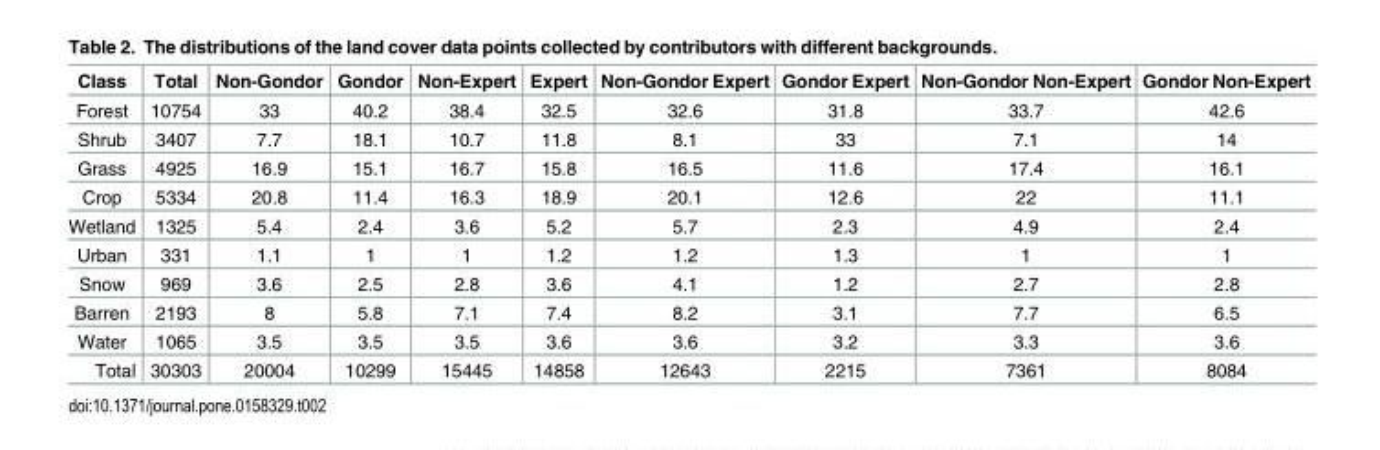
<table><thead><tr><td>Class</td><td>Total</td><td>Non-Gondor</td><td>Gondor</td><td>Non-Expert</td><td>Expert</td><td>Non-Gondor Expert</td><td>Gondor Expert</td><td>Non-Gondor Non-Expert</td><td>Gondor Non-Expert</td></tr></thead><tbody><tr><td>Forest</td><td>10754</td><td>33</td><td>40.2</td><td>38.4</td><td>32.5</td><td>32.6</td><td>31.8</td><td>33.7</td><td>42.6</td></tr><tr><td>Shrub</td><td>3407</td><td>7.7</td><td>18.1</td><td>10.7</td><td>11.8</td><td>8.1</td><td>33</td><td>7.1</td><td>14</td></tr><tr><td>Grass</td><td>4925</td><td>16.9</td><td>15.1</td><td>16.7</td><td>15.8</td><td>16.5</td><td>11.6</td><td>17.4</td><td>16.1</td></tr><tr><td>Crop</td><td>5334</td><td>20.8</td><td>11.4</td><td>16.3</td><td>18.9</td><td>20.1</td><td>12.6</td><td>22</td><td>11.1</td></tr><tr><td>Wetland</td><td>1325</td><td>5.4</td><td>2.4</td><td>3.6</td><td>5.2</td><td>5.7</td><td>2.3</td><td>4.9</td><td>2.4</td></tr><tr><td>Urban</td><td>331</td><td>1.1</td><td>1</td><td>1</td><td>1.2</td><td>1.2</td><td>1.3</td><td>1</td><td>1</td></tr><tr><td>Snow</td><td>969</td><td>3.6</td><td>2.5</td><td>2.8</td><td>3.6</td><td>4.1</td><td>1.2</td><td>2.7</td><td>2.8</td></tr><tr><td>Barren</td><td>2193</td><td>8</td><td>5.8</td><td>7.1</td><td>7.4</td><td>8.2</td><td>3.1</td><td>7.7</td><td>6.5</td></tr><tr><td>Water</td><td>1065</td><td>3.5</td><td>3.5</td><td>3.5</td><td>3.6</td><td>3.6</td><td>3.2</td><td>3.3</td><td>3.6</td></tr><tr><td>Total</td><td>30303</td><td>20004</td><td>10299</td><td>15445</td><td>14858</td><td>12643</td><td>2215</td><td>7361</td><td>8084</td></tr></tbody></table>